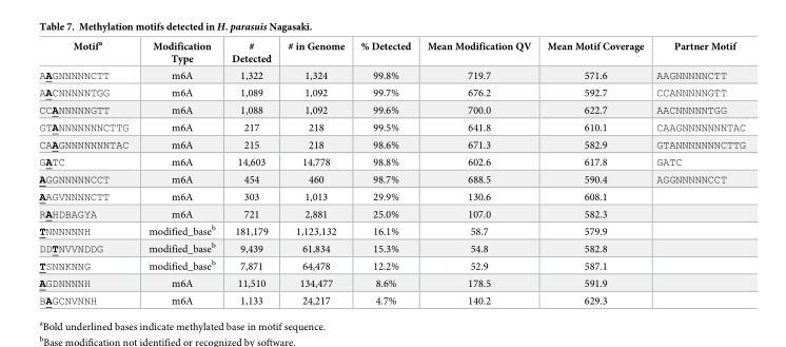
<table><thead><tr><td>Motif<sup>a</sup></td><td>Modification Type</td><td># Detected</td><td># in Genome</td><td>% Detected</td><td>Mean Modification QV</td><td>Mean Motif Coverage</td><td>Partner Motif</td></tr></thead><tbody><tr><td>AAGNNNNNCTT</td><td>m6A</td><td>1,322</td><td>1,324</td><td>99.8%</td><td>719.7</td><td>571.6</td><td>AAGNNNNNCTT</td></tr><tr><td>AACNNNNNTGG</td><td>m6A</td><td>1,089</td><td>1,092</td><td>99.7%</td><td>676.2</td><td>592.7</td><td>CCANNNNNGTT</td></tr><tr><td>CCANNNNNGTT</td><td>m6A</td><td>1,088</td><td>1,092</td><td>99.6%</td><td>700.0</td><td>622.7</td><td>AACNNNNNTGG</td></tr><tr><td>GTANNNNNNNCTTG</td><td>m6A</td><td>217</td><td>218</td><td>99.5%</td><td>641.8</td><td>610.1</td><td>CAAGNNNNNNNTAC</td></tr><tr><td>CAAGNNNNNNNTAC</td><td>m6A</td><td>215</td><td>218</td><td>98.6%</td><td>671.3</td><td>582.9</td><td>GTANNNNNNNCTTG</td></tr><tr><td>GATC</td><td>m6A</td><td>14,603</td><td>14,778</td><td>98.8%</td><td>602.6</td><td>617.8</td><td>GATC</td></tr><tr><td>AGGNNNNNCCT</td><td>m6A</td><td>454</td><td>460</td><td>98.7%</td><td>688.5</td><td>590.4</td><td>AGGNNNNNCCT</td></tr><tr><td>AAGVNNNNCTT</td><td>m6A</td><td>303</td><td>1,013</td><td>29.9%</td><td>130.6</td><td>608.1</td><td></td></tr><tr><td>RAHDBAGYA</td><td>m6A</td><td>721</td><td>2,881</td><td>25.0%</td><td>107.0</td><td>582.3</td><td></td></tr><tr><td>TNNNNNNH</td><td>modified_base<sup>b</sup></td><td>181,179</td><td>1,123,132</td><td>16.1%</td><td>58.7</td><td>579.9</td><td></td></tr><tr><td>DDTNVVNDDG</td><td>modified_base<sup>b</sup></td><td>9,439</td><td>61,834</td><td>15.3%</td><td>54.8</td><td>582.8</td><td></td></tr><tr><td>TSNNKNNG</td><td>modified_base<sup>b</sup></td><td>7,871</td><td>64,478</td><td>12.2%</td><td>52.9</td><td>587.1</td><td></td></tr><tr><td>AGDNNNNH</td><td>m6A</td><td>11,510</td><td>134,477</td><td>8.6%</td><td>178.5</td><td>591.9</td><td></td></tr><tr><td>BAGCNVNNH</td><td>m6A</td><td>1,133</td><td>24,217</td><td>4.7%</td><td>140.2</td><td>629.3</td><td></td></tr></tbody></table>